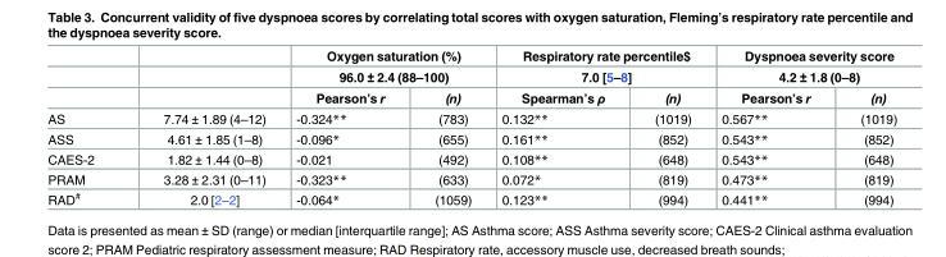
<table><thead><tr><td rowspan="3"></td><td rowspan="3"></td><td rowspan="2" colspan="2">Oxygen saturation (%) 96.0 ± 2.4 (88–100)</td><td rowspan="2" colspan="2">Respiratory rate percentile$ 7.0 [5–8]</td><td rowspan="2" colspan="2">Dyspnoea severity score 4.2 ± 1.8 (0–8)</td></tr><tr></tr><tr><td>Pearson’s r</td><td>(n)</td><td>Spearman’s ρ</td><td>(n)</td><td>Pearson’s r</td><td>(n)</td></tr></thead><tbody><tr><td>AS</td><td>7.74 ± 1.89 (4–12)</td><td>-0.324**</td><td>(783)</td><td>0.132**</td><td>(1019)</td><td>0.567**</td><td>(1019)</td></tr><tr><td>ASS</td><td>4.61 ± 1.85 (1–8)</td><td>-0.096*</td><td>(655)</td><td>0.161**</td><td>(852)</td><td>0.543**</td><td>(852)</td></tr><tr><td>CAES-2</td><td>1.82 ± 1.44 (0–8)</td><td>-0.021</td><td>(492)</td><td>0.108**</td><td>(648)</td><td>0.543**</td><td>(648)</td></tr><tr><td>PRAM</td><td>3.28 ± 2.31 (0–11)</td><td>-0.323**</td><td>(633)</td><td>0.072*</td><td>(819)</td><td>0.473**</td><td>(819)</td></tr><tr><td>RAD<sup>#</sup></td><td>2.0 [2–2]</td><td>-0.064*</td><td>(1059)</td><td>0.123**</td><td>(994)</td><td>0.441**</td><td>(994)</td></tr></tbody></table>